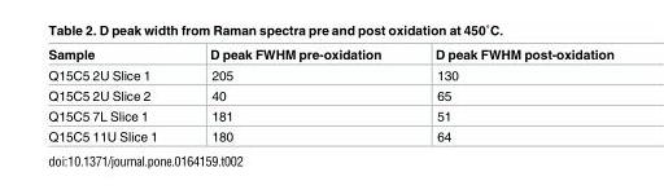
<table><thead><tr><td>Sample</td><td>D peak FWHM pre-oxidation</td><td>D peak FWHM post-oxidation</td></tr></thead><tbody><tr><td>Q15C5 2U Slice 1</td><td>205</td><td>130</td></tr><tr><td>Q15C5 2U Slice 2</td><td>40</td><td>65</td></tr><tr><td>Q15C5 7L Slice 1</td><td>181</td><td>51</td></tr><tr><td>Q15C5 11U Slice 1</td><td>180</td><td>64</td></tr></tbody></table>